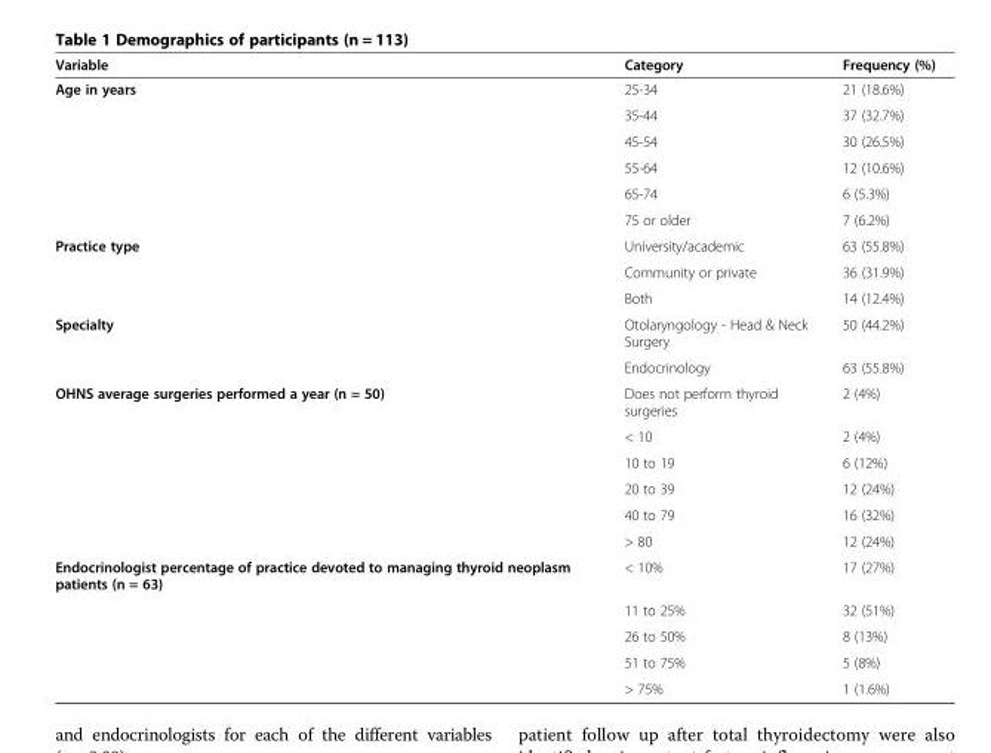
<table><thead><tr><td>Variable</td><td>Category</td><td>Frequency (%)</td></tr></thead><tbody><tr><td rowspan="6">Age in years</td><td>25-34</td><td>21 (18.6%)</td></tr><tr><td>35-44</td><td>37 (32.7%)</td></tr><tr><td>45-54</td><td>30 (26.5%)</td></tr><tr><td>55-64</td><td>12 (10.6%)</td></tr><tr><td>65-74</td><td>6 (5.3%)</td></tr><tr><td>75 or older</td><td>7 (6.2%)</td></tr><tr><td rowspan="3">Practice type</td><td>University/academic</td><td>63 (55.8%)</td></tr><tr><td>Community or private</td><td>36 (31.9%)</td></tr><tr><td>Both</td><td>14 (12.4%)</td></tr><tr><td rowspan="2">Specialty</td><td>Otolaryngology - Head &amp; Neck Surgery</td><td>50 (44.2%)</td></tr><tr><td>Endocrinology</td><td>63 (55.8%)</td></tr><tr><td rowspan="6">OHNS average surgeries performed a year (n = 50)</td><td>Does not perform thyroid surgeries</td><td>2 (4%)</td></tr><tr><td>&lt; 10</td><td>2 (4%)</td></tr><tr><td>10 to 19</td><td>6 (12%)</td></tr><tr><td>20 to 39</td><td>12 (24%)</td></tr><tr><td>40 to 79</td><td>16 (32%)</td></tr><tr><td>&gt; 80</td><td>12 (24%)</td></tr><tr><td rowspan="5">Endocrinologist percentage of practice devoted to managing thyroid neoplasm patients (n = 63)</td><td>&lt; 10%</td><td>17 (27%)</td></tr><tr><td>11 to 25%</td><td>32 (51%)</td></tr><tr><td>26 to 50%</td><td>8 (13%)</td></tr><tr><td>51 to 75%</td><td>5 (8%)</td></tr><tr><td>&gt; 75%</td><td>1 (1.6%)</td></tr></tbody></table>